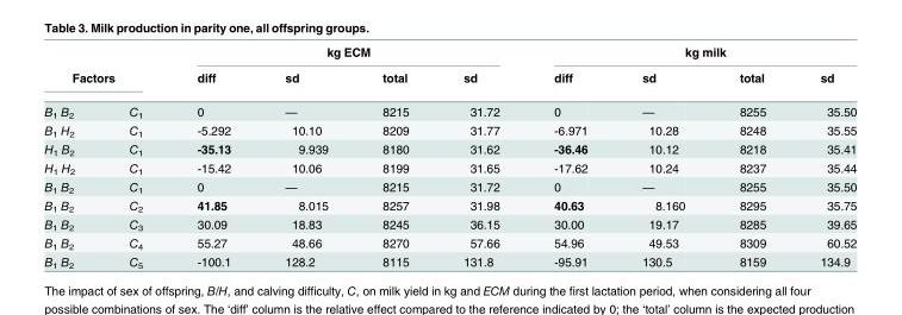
<table><thead><tr><td></td><td></td><td colspan="4">kg ECM</td><td colspan="4">kg milk</td></tr><tr><td colspan="2">Factors</td><td>diff</td><td>sd</td><td>total</td><td>sd</td><td>diff</td><td>sd</td><td>total</td><td>sd</td></tr></thead><tbody><tr><td>B<sub>1</sub> B<sub>2</sub></td><td>C<sub>1</sub></td><td>0</td><td>—</td><td>8215</td><td>31.72</td><td>0</td><td>—</td><td>8255</td><td>35.50</td></tr><tr><td>B<sub>1</sub> H<sub>2</sub></td><td>C<sub>1</sub></td><td>-5.292</td><td>10.10</td><td>8209</td><td>31.77</td><td>-6.971</td><td>10.28</td><td>8248</td><td>35.55</td></tr><tr><td>H<sub>1</sub> B<sub>2</sub></td><td>C<sub>1</sub></td><td>-35.13</td><td>9.939</td><td>8180</td><td>31.62</td><td>-36.46</td><td>10.12</td><td>8218</td><td>35.41</td></tr><tr><td>H<sub>1</sub> H<sub>2</sub></td><td>C<sub>1</sub></td><td>-15.42</td><td>10.06</td><td>8199</td><td>31.65</td><td>-17.62</td><td>10.24</td><td>8237</td><td>35.44</td></tr><tr><td>B<sub>1</sub> B<sub>2</sub></td><td>C<sub>1</sub></td><td>0</td><td>—</td><td>8215</td><td>31.72</td><td>0</td><td>—</td><td>8255</td><td>35.50</td></tr><tr><td>B<sub>1</sub> B<sub>2</sub></td><td>C<sub>2</sub></td><td>41.85</td><td>8.015</td><td>8257</td><td>31.98</td><td>40.63</td><td>8.160</td><td>8295</td><td>35.75</td></tr><tr><td>B<sub>1</sub> B<sub>2</sub></td><td>C<sub>3</sub></td><td>30.09</td><td>18.83</td><td>8245</td><td>36.15</td><td>30.00</td><td>19.17</td><td>8285</td><td>39.65</td></tr><tr><td>B<sub>1</sub> B<sub>2</sub></td><td>C<sub>4</sub></td><td>55.27</td><td>48.66</td><td>8270</td><td>57.66</td><td>54.96</td><td>49.53</td><td>8309</td><td>60.52</td></tr><tr><td>B<sub>1</sub> B<sub>2</sub></td><td>C<sub>5</sub></td><td>-100.1</td><td>128.2</td><td>8115</td><td>131.8</td><td>-95.91</td><td>130.5</td><td>8159</td><td>134.9</td></tr></tbody></table>